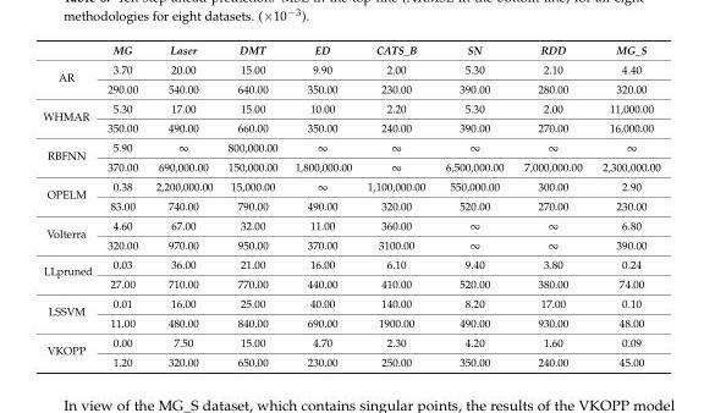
<table><thead><tr><td></td><td>MG</td><td>Laser</td><td>DMT</td><td>ED</td><td>CATS_B</td><td>SN</td><td>RDD</td><td>MG_S</td></tr></thead><tbody><tr><td rowspan="2">AR</td><td>3.70</td><td>20.00</td><td>15.00</td><td>9.90</td><td>2.00</td><td>5.30</td><td>2.10</td><td>4.40</td></tr><tr><td>290.00</td><td>540.00</td><td>640.00</td><td>350.00</td><td>230.00</td><td>390.00</td><td>280.00</td><td>320.00</td></tr><tr><td rowspan="2">WHMAR</td><td>5.30</td><td>17.00</td><td>15.00</td><td>10.00</td><td>2.20</td><td>5.30</td><td>2.00</td><td>11,000.00</td></tr><tr><td>350.00</td><td>490.00</td><td>660.00</td><td>350.00</td><td>240.00</td><td>390.00</td><td>270.00</td><td>16,000.00</td></tr><tr><td rowspan="2">RBFNN</td><td>5.90</td><td>∞</td><td>800,000.00</td><td>∞</td><td>∞</td><td>∞</td><td>∞</td><td>∞</td></tr><tr><td>370.00</td><td>690,000.00</td><td>150,000.00</td><td>1,800,000.00</td><td>∞</td><td>6,500,000.00</td><td>7,000,000.00</td><td>2,300,000.00</td></tr><tr><td rowspan="2">OPELM</td><td>0.38</td><td>2,200,000.00</td><td>15,000.00</td><td>∞</td><td>1,100,000.00</td><td>550,000.00</td><td>300.00</td><td>2.90</td></tr><tr><td>83.00</td><td>740.00</td><td>790.00</td><td>490.00</td><td>320.00</td><td>520.00</td><td>270.00</td><td>230.00</td></tr><tr><td rowspan="2">Volterra</td><td>4.60</td><td>67.00</td><td>32.00</td><td>11.00</td><td>360.00</td><td>∞</td><td>∞</td><td>6.80</td></tr><tr><td>320.00</td><td>970.00</td><td>950.00</td><td>370.00</td><td>3100.00</td><td>∞</td><td>∞</td><td>390.00</td></tr><tr><td rowspan="2">LLpruned</td><td>0.03</td><td>36.00</td><td>21.00</td><td>16.00</td><td>6.10</td><td>9.40</td><td>3.80</td><td>0.24</td></tr><tr><td>27.00</td><td>710.00</td><td>770.00</td><td>440.00</td><td>410.00</td><td>520.00</td><td>380.00</td><td>74.00</td></tr><tr><td rowspan="2">LSSVM</td><td>0.01</td><td>16.00</td><td>25.00</td><td>40.00</td><td>140.00</td><td>8.20</td><td>17.00</td><td>0.10</td></tr><tr><td>11.00</td><td>480.00</td><td>840.00</td><td>690.00</td><td>1900.00</td><td>490.00</td><td>930.00</td><td>48.00</td></tr><tr><td rowspan="2">VKOPP</td><td>0.00</td><td>7.50</td><td>15.00</td><td>4.70</td><td>2.30</td><td>4.20</td><td>1.60</td><td>0.09</td></tr><tr><td>1.20</td><td>320.00</td><td>650.00</td><td>230.00</td><td>250.00</td><td>350.00</td><td>240.00</td><td>45.00</td></tr></tbody></table>